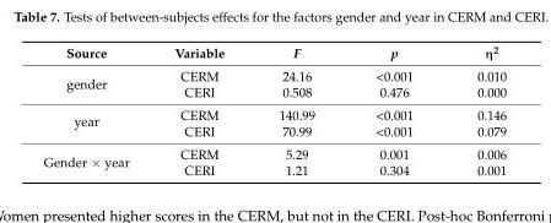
<table><thead><tr><td>Source</td><td>Variable</td><td>F</td><td>p</td><td>η<sup>2</sup></td></tr></thead><tbody><tr><td rowspan="2">gender</td><td>CERM</td><td>24.16</td><td>&lt;0.001</td><td>0.010</td></tr><tr><td>CERI</td><td>0.508</td><td>0.476</td><td>0.000</td></tr><tr><td rowspan="2">year</td><td>CERM</td><td>140.99</td><td>&lt;0.001</td><td>0.146</td></tr><tr><td>CERI</td><td>70.99</td><td>&lt;0.001</td><td>0.079</td></tr><tr><td rowspan="2">Gender × year</td><td>CERM</td><td>5.29</td><td>0.001</td><td>0.006</td></tr><tr><td>CERI</td><td>1.21</td><td>0.304</td><td>0.001</td></tr></tbody></table>